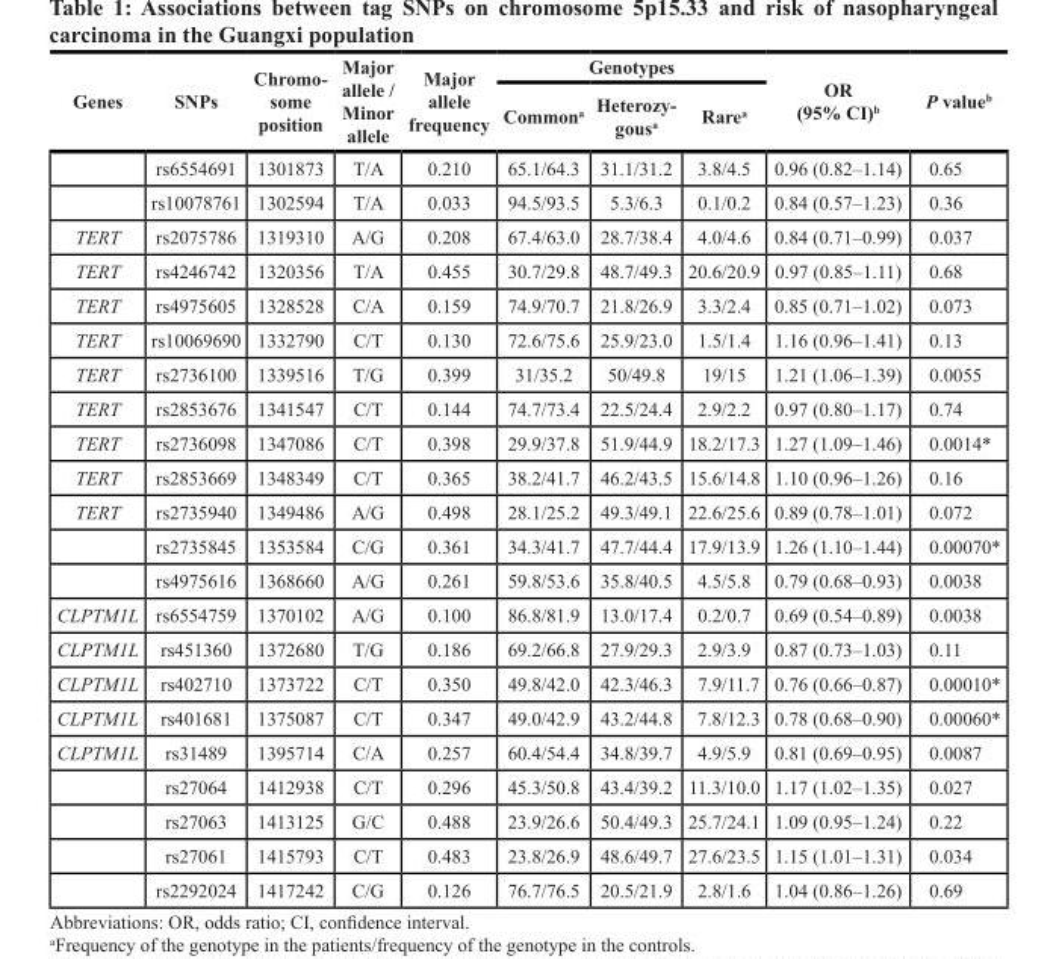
<table><thead><tr><td rowspan="2">Genes</td><td rowspan="2">SNPs</td><td rowspan="2">Chromo some position</td><td rowspan="2">Major allele / Minor allele</td><td rowspan="2">Major allele frequency</td><td colspan="3">Genotypes</td><td rowspan="2">OR (95% CI)<sup>b</sup></td><td rowspan="2">P value<sup>b</sup></td></tr><tr><td>Common<sup>a</sup></td><td>Heterozy gousa</td><td>Rare<sup>a</sup></td></tr></thead><tbody><tr><td></td><td>rs6554691</td><td>1301873</td><td>T/A</td><td>0.210</td><td>65.1/64.3</td><td>31.1/31.2</td><td>3.8/4.5</td><td>0.96 (0.82–1.14)</td><td>0.65</td></tr><tr><td></td><td>rs10078761</td><td>1302594</td><td>T/A</td><td>0.033</td><td>94.5/93.5</td><td>5.3/6.3</td><td>0.1/0.2</td><td>0.84 (0.57–1.23)</td><td>0.36</td></tr><tr><td>TERT</td><td>rs2075786</td><td>1319310</td><td>A/G</td><td>0.208</td><td>67.4/63.0</td><td>28.7/38.4</td><td>4.0/4.6</td><td>0.84 (0.71–0.99)</td><td>0.037</td></tr><tr><td>TERT</td><td>rs4246742</td><td>1320356</td><td>T/A</td><td>0.455</td><td>30.7/29.8</td><td>48.7/49.3</td><td>20.6/20.9</td><td>0.97 (0.85–1.11)</td><td>0.68</td></tr><tr><td>TERT</td><td>rs4975605</td><td>1328528</td><td>C/A</td><td>0.159</td><td>74.9/70.7</td><td>21.8/26.9</td><td>3.3/2.4</td><td>0.85 (0.71–1.02)</td><td>0.073</td></tr><tr><td>TERT</td><td>rs10069690</td><td>1332790</td><td>C/T</td><td>0.130</td><td>72.6/75.6</td><td>25.9/23.0</td><td>1.5/1.4</td><td>1.16 (0.96–1.41)</td><td>0.13</td></tr><tr><td>TERT</td><td>rs2736100</td><td>1339516</td><td>T/G</td><td>0.399</td><td>31/35.2</td><td>50/49.8</td><td>19/15</td><td>1.21 (1.06–1.39)</td><td>0.0055</td></tr><tr><td>TERT</td><td>rs2853676</td><td>1341547</td><td>C/T</td><td>0.144</td><td>74.7/73.4</td><td>22.5/24.4</td><td>2.9/2.2</td><td>0.97 (0.80–1.17)</td><td>0.74</td></tr><tr><td>TERT</td><td>rs2736098</td><td>1347086</td><td>C/T</td><td>0.398</td><td>29.9/37.8</td><td>51.9/44.9</td><td>18.2/17.3</td><td>1.27 (1.09–1.46)</td><td>0.0014*</td></tr><tr><td>TERT</td><td>rs2853669</td><td>1348349</td><td>C/T</td><td>0.365</td><td>38.2/41.7</td><td>46.2/43.5</td><td>15.6/14.8</td><td>1.10 (0.96–1.26)</td><td>0.16</td></tr><tr><td rowspan="3">TERT</td><td>rs2735940</td><td>1349486</td><td>A/G</td><td>0.498</td><td>28.1/25.2</td><td>49.3/49.1</td><td>22.6/25.6</td><td>0.89 (0.78–1.01)</td><td>0.072</td></tr><tr><td>rs2735845</td><td>1353584</td><td>C/G</td><td>0.361</td><td>34.3/41.7</td><td>47.7/44.4</td><td>17.9/13.9</td><td>1.26 (1.10–1.44)</td><td>0.00070*</td></tr><tr><td>rs4975616</td><td>1368660</td><td>A/G</td><td>0.261</td><td>59.8/53.6</td><td>35.8/40.5</td><td>4.5/5.8</td><td>0.79 (0.68–0.93)</td><td>0.0038</td></tr><tr><td>CLPTM1L</td><td>rs6554759</td><td>1370102</td><td>A/G</td><td>0.100</td><td>86.8/81.9</td><td>13.0/17.4</td><td>0.2/0.7</td><td>0.69 (0.54–0.89)</td><td>0.0038</td></tr><tr><td>CLPTM1L</td><td>rs451360</td><td>1372680</td><td>T/G</td><td>0.186</td><td>69.2/66.8</td><td>27.9/29.3</td><td>2.9/3.9</td><td>0.87 (0.73–1.03)</td><td>0.11</td></tr><tr><td>CLPTM1L</td><td>rs402710</td><td>1373722</td><td>C/T</td><td>0.350</td><td>49.8/42.0</td><td>42.3/46.3</td><td>7.9/11.7</td><td>0.76 (0.66–0.87)</td><td>0.00010*</td></tr><tr><td>CLPTM1L</td><td>rs401681</td><td>1375087</td><td>C/T</td><td>0.347</td><td>49.0/42.9</td><td>43.2/44.8</td><td>7.8/12.3</td><td>0.78 (0.68–0.90)</td><td>0.00060*</td></tr><tr><td rowspan="5">CLPTM1L</td><td>rs31489</td><td>1395714</td><td>C/A</td><td>0.257</td><td>60.4/54.4</td><td>34.8/39.7</td><td>4.9/5.9</td><td>0.81 (0.69–0.95)</td><td>0.0087</td></tr><tr><td>rs27064</td><td>1412938</td><td>C/T</td><td>0.296</td><td>45.3/50.8</td><td>43.4/39.2</td><td>11.3/10.0</td><td>1.17 (1.02–1.35)</td><td>0.027</td></tr><tr><td>rs27063</td><td>1413125</td><td>G/C</td><td>0.488</td><td>23.9/26.6</td><td>50.4/49.3</td><td>25.7/24.1</td><td>1.09 (0.95–1.24)</td><td>0.22</td></tr><tr><td>rs27061</td><td>1415793</td><td>C/T</td><td>0.483</td><td>23.8/26.9</td><td>48.6/49.7</td><td>27.6/23.5</td><td>1.15 (1.01–1.31)</td><td>0.034</td></tr><tr><td>rs2292024</td><td>1417242</td><td>C/G</td><td>0.126</td><td>76.7/76.5</td><td>20.5/21.9</td><td>2.8/1.6</td><td>1.04 (0.86–1.26)</td><td>0.69</td></tr></tbody></table>